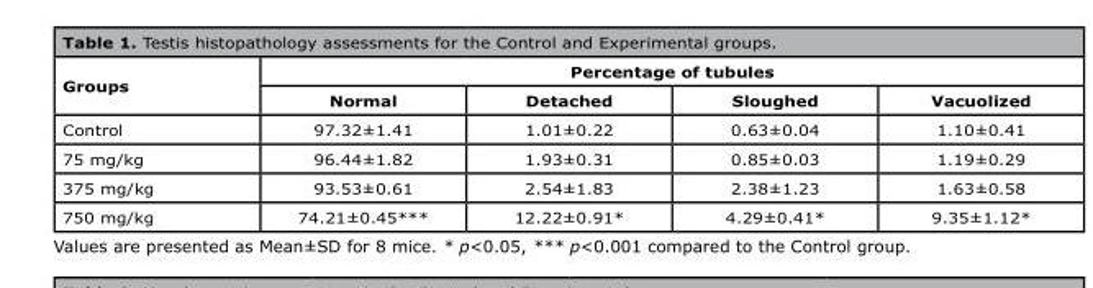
<table><thead><tr><td rowspan="2">Groups</td><td colspan="4">Percentage of tubules</td></tr><tr><td>Normal</td><td>Detached</td><td>Sloughed</td><td>Vacuolized</td></tr></thead><tbody><tr><td>Control</td><td>97.32±1.41</td><td>1.01±0.22</td><td>0.63±0.04</td><td>1.10±0.41</td></tr><tr><td>75 mg/kg</td><td>96.44±1.82</td><td>1.93±0.31</td><td>0.85±0.03</td><td>1.19±0.29</td></tr><tr><td>375 mg/kg</td><td>93.53±0.61</td><td>2.54±1.83</td><td>2.38±1.23</td><td>1.63±0.58</td></tr><tr><td>750 mg/kg</td><td>74.21±0.45***</td><td>12.22±0.91*</td><td>4.29±0.41*</td><td>9.35±1.12*</td></tr></tbody></table>